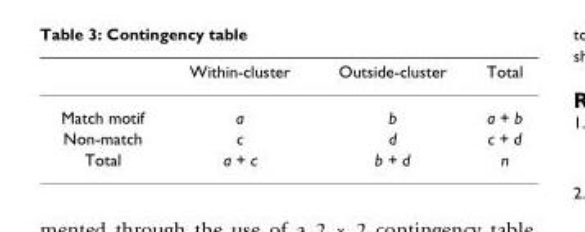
<table><thead><tr><td></td><td>Within-cluster</td><td>Outside-cluster</td><td>Total</td></tr></thead><tbody><tr><td>Match motif</td><td>a</td><td>b</td><td>a + b</td></tr><tr><td>Non-match</td><td>c</td><td>d</td><td>c + d</td></tr><tr><td>Total</td><td>a + c</td><td>b + d</td><td>n</td></tr></tbody></table>